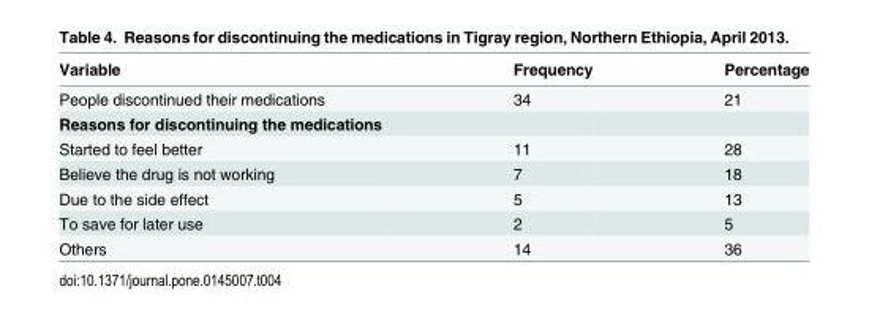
<table><thead><tr><td>Variable</td><td>Frequency</td><td>Percentage</td></tr></thead><tbody><tr><td>People discontinued their medications</td><td>34</td><td>21</td></tr><tr><td colspan="3">Reasons for discontinuing the medications</td></tr><tr><td>Started to feel better</td><td>11</td><td>28</td></tr><tr><td>Believe the drug is not working</td><td>7</td><td>18</td></tr><tr><td>Due to the side effect</td><td>5</td><td>13</td></tr><tr><td>To save for later use</td><td>2</td><td>5</td></tr><tr><td>Others</td><td>14</td><td>36</td></tr></tbody></table>